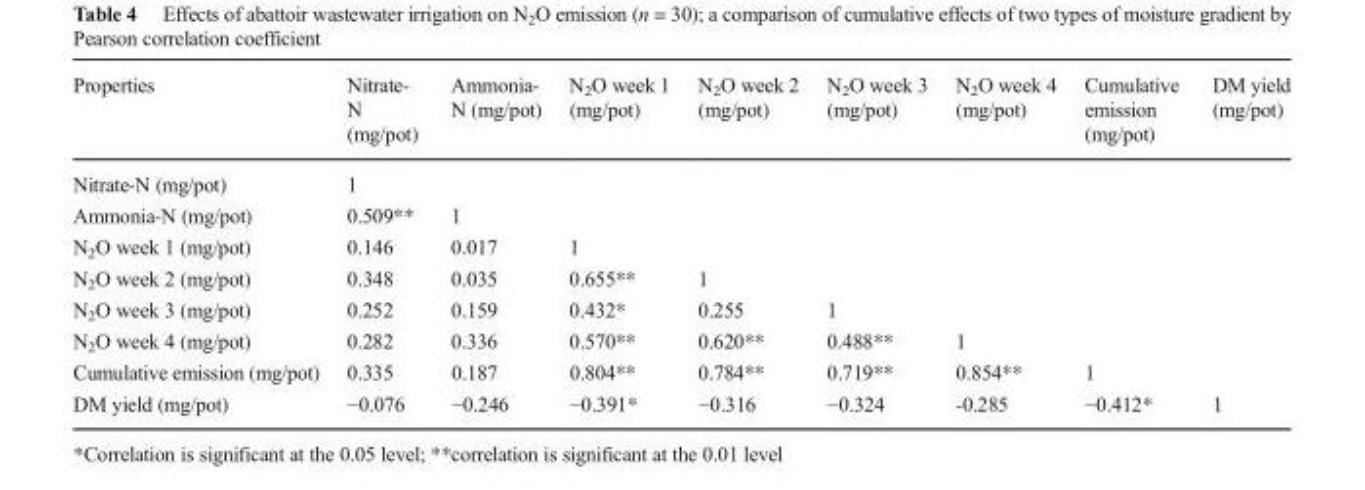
<table><thead><tr><td>Properties</td><td>Nitrate- N (mg/pot)</td><td>Ammonia- N (mg/pot)</td><td>N<sub>2</sub>O week 1 (mg/pot)</td><td>N<sub>2</sub>O week 2 (mg/pot)</td><td>N<sub>2</sub>O week 3 (mg/pot)</td><td>N<sub>2</sub>O week 4 (mg/pot)</td><td>Cumulative emission (mg/pot)</td><td>DM yield (mg/pot)</td></tr></thead><tbody><tr><td>Nitrate-N (mg/pot)</td><td>1</td><td></td><td></td><td></td><td></td><td></td><td></td><td></td></tr><tr><td>Ammonia-N (mg/pot)</td><td>0.509**</td><td>1</td><td></td><td></td><td></td><td></td><td></td><td></td></tr><tr><td>N<sub>2</sub>O week 1 (mg/pot)</td><td>0.146</td><td>0.017</td><td>1</td><td></td><td></td><td></td><td></td><td></td></tr><tr><td>N<sub>2</sub>O week 2 (mg/pot)</td><td>0.348</td><td>0.035</td><td>0.655**</td><td>1</td><td></td><td></td><td></td><td></td></tr><tr><td>N<sub>2</sub>O week 3 (mg/pot)</td><td>0.252</td><td>0.159</td><td>0.432*</td><td>0.255</td><td>1</td><td></td><td></td><td></td></tr><tr><td>N<sub>2</sub>O week 4 (mg/pot)</td><td>0.282</td><td>0.336</td><td>0.570**</td><td>0.620**</td><td>0.488**</td><td>1</td><td></td><td></td></tr><tr><td>Cumulative emission (mg/pot)</td><td>0.335</td><td>0.187</td><td>0.804**</td><td>0.784**</td><td>0.719**</td><td>0.854**</td><td>1</td><td></td></tr><tr><td>DM yield (mg/pot)</td><td>−0.076</td><td>−0.246</td><td>−0.391*</td><td>−0.316</td><td>−0.324</td><td>-0.285</td><td>−0.412*</td><td>1</td></tr></tbody></table>